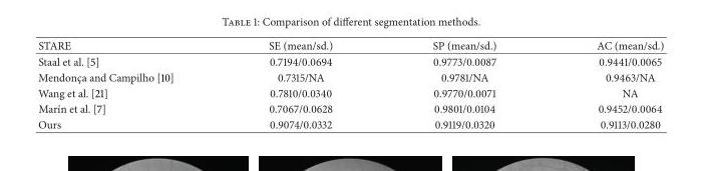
<table><thead><tr><td>STARE</td><td>SE (mean/sd.)</td><td>SP (mean/sd.)</td><td>AC (mean/sd.)</td></tr></thead><tbody><tr><td>Staal et al. [5]</td><td>0.7194/0.0694</td><td>0.9773/0.0087</td><td>0.9441/0.0065</td></tr><tr><td>Mendonc¸a and Campilho [10]</td><td>0.7315/NA</td><td>0.9781/NA</td><td>0.9463/NA</td></tr><tr><td>Wang et al. [21]</td><td>0.7810/0.0340</td><td>0.9770/0.0071</td><td>NA</td></tr><tr><td>Mar´ın et al. [7]</td><td>0.7067/0.0628</td><td>0.9801/0.0104</td><td>0.9452/0.0064</td></tr><tr><td>Ours</td><td>0.9074/0.0332</td><td>0.9119/0.0320</td><td>0.9113/0.0280</td></tr></tbody></table>